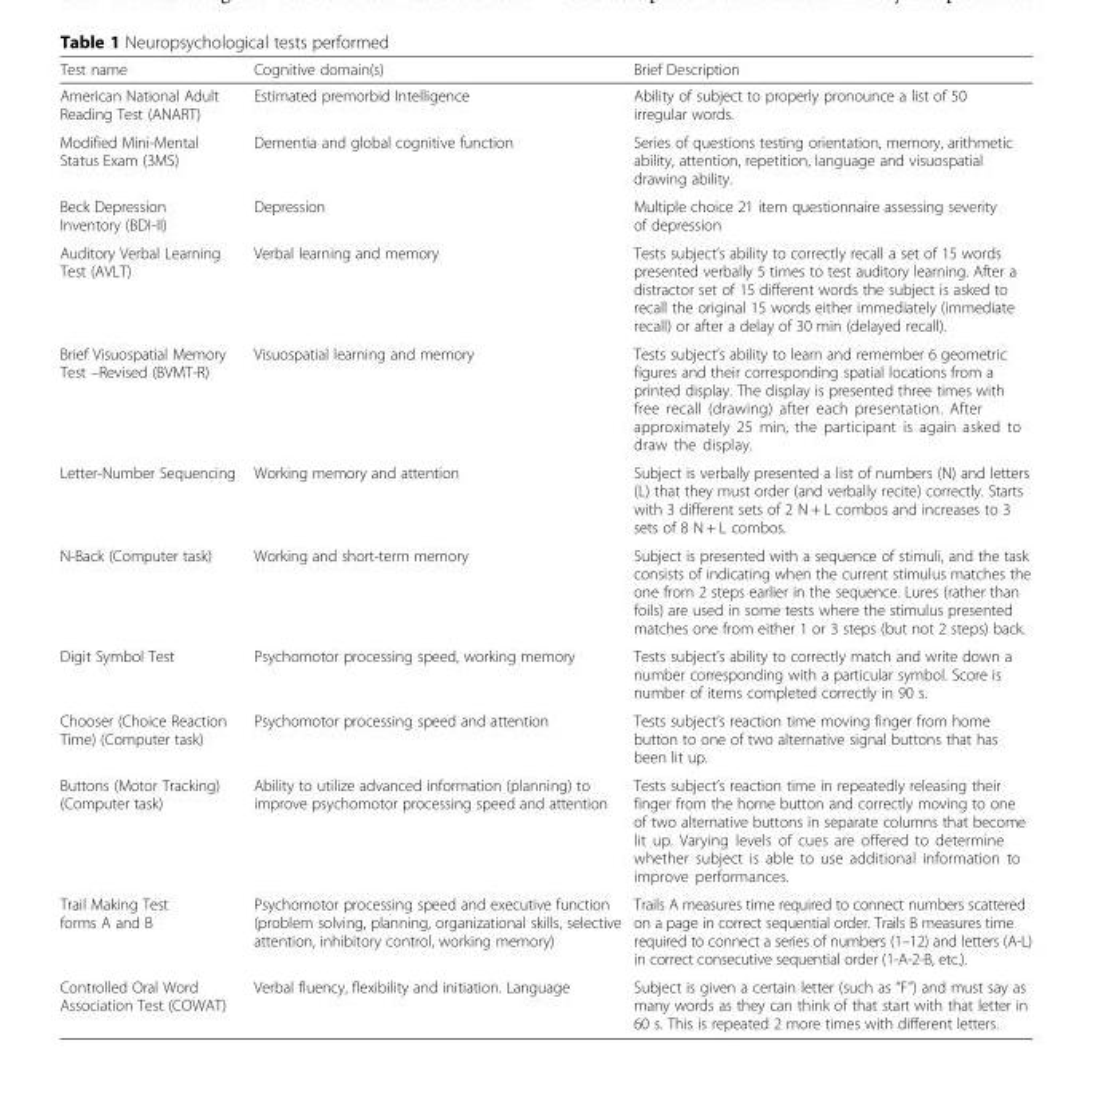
<table><thead><tr><td>Test name</td><td>Cognitive domain(s)</td><td>Brief Description</td></tr></thead><tbody><tr><td>American National Adult Reading Test (ANART)</td><td>Estimated premorbid Intelligence</td><td>Ability of subject to properly pronounce a list of 50 irregular words.</td></tr><tr><td>Modified Mini-Mental Status Exam (3MS)</td><td>Dementia and global cognitive function</td><td>Series of questions testing orientation, memory, arithmetic ability, attention, repetition, language and visuospatial drawing ability.</td></tr><tr><td>Beck Depression Inventory (BDI-II)</td><td>Depression</td><td>Multiple choice 21 item questionnaire assessing severity of depression</td></tr><tr><td>Auditory Verbal Learning Test (AVLT)</td><td>Verbal learning and memory</td><td>Tests subject’s ability to correctly recall a set of 15 words presented verbally 5 times to test auditory learning. After a distractor set of 15 different words the subject is asked to recall the original 15 words either immediately (immediate recall) or after a delay of 30 min (delayed recall).</td></tr><tr><td>Brief Visuospatial Memory Test –Revised (BVMT-R)</td><td>Visuospatial learning and memory</td><td>Tests subject’s ability to learn and remember 6 geometric figures and their corresponding spatial locations from a printed display. The display is presented three times with free recall (drawing) after each presentation. After approximately 25 min, the participant is again asked to draw the display.</td></tr><tr><td>Letter-Number Sequencing</td><td>Working memory and attention</td><td>Subject is verbally presented a list of numbers (N) and letters (L) that they must order (and verbally recite) correctly. Starts with 3 different sets of 2 N + L combos and increases to 3 sets of 8 N + L combos.</td></tr><tr><td>N-Back (Computer task)</td><td>Working and short-term memory</td><td>Subject is presented with a sequence of stimuli, and the task consists of indicating when the current stimulus matches the one from 2 steps earlier in the sequence. Lures (rather than foils) are used in some tests where the stimulus presented matches one from either 1 or 3 steps (but not 2 steps) back.</td></tr><tr><td>Digit Symbol Test</td><td>Psychomotor processing speed, working memory</td><td>Tests subject’s ability to correctly match and write down a number corresponding with a particular symbol. Score is number of items completed correctly in 90 s.</td></tr><tr><td>Chooser (Choice Reaction Time) (Computer task)</td><td>Psychomotor processing speed and attention</td><td>Tests subject’s reaction time moving finger from home button to one of two alternative signal buttons that has been lit up.</td></tr><tr><td>Buttons (Motor Tracking) (Computer task)</td><td>Ability to utilize advanced information (planning) to improve psychomotor processing speed and attention</td><td>Tests subject’s reaction time in repeatedly releasing their finger from the home button and correctly moving to one of two alternative buttons in separate columns that become lit up. Varying levels of cues are offered to determine whether subject is able to use additional information to improve performances.</td></tr><tr><td>Trail Making Test forms A and B</td><td>Psychomotor processing speed and executive function (problem solving, planning, organizational skills, selective attention, inhibitory control, working memory)</td><td>Trails A measures time required to connect numbers scattered on a page in correct sequential order. Trails B measures time required to connect a series of numbers (1–12) and letters (A-L) in correct consecutive sequential order (1-A-2-B, etc.).</td></tr><tr><td>Controlled Oral Word Association Test (COWAT)</td><td>Verbal fluency, flexibility and initiation. Language</td><td>Subject is given a certain letter (such as “F”) and must say as many words as they can think of that start with that letter in 60 s. This is repeated 2 more times with different letters.</td></tr></tbody></table>